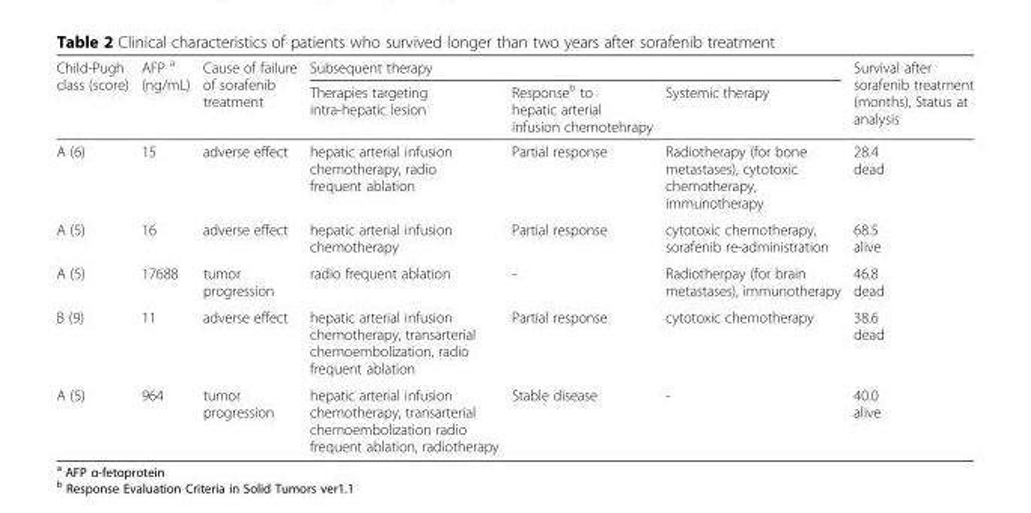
<table><thead><tr><td rowspan="2">Child-Pugh class (score)</td><td rowspan="2">AFP <sup>a</sup> (ng/mL)</td><td rowspan="2">Cause of failure of sorafenib treatment</td><td colspan="3">Subsequent therapy</td><td rowspan="2">Survival after sorafenib treatment (months), Status at analysis</td></tr><tr><td>Therapies targeting intra-hepatic lesion</td><td>Response<sup>b</sup> to hepatic arterial infusion chemotehrapy</td><td>Systemic therapy</td></tr></thead><tbody><tr><td>A (6)</td><td>15</td><td>adverse effect</td><td>hepatic arterial infusion chemotherapy, radio frequent ablation</td><td>Partial response</td><td>Radiotherapy (for bone metastases), cytotoxic chemotherapy, immunotherapy</td><td>28.4 dead</td></tr><tr><td>A (5)</td><td>16</td><td>adverse effect</td><td>hepatic arterial infusion chemotherapy</td><td>Partial response</td><td>cytotoxic chemotherapy, sorafenib re-administration</td><td>68.5 alive</td></tr><tr><td>A (5)</td><td>17688</td><td>tumor progression</td><td>radio frequent ablation</td><td>-</td><td>Radiotherpay (for brain metastases), immunotherapy</td><td>46.8 dead</td></tr><tr><td>B (9)</td><td>11</td><td>adverse effect</td><td>hepatic arterial infusion chemotherapy, transarterial chemoembolization, radio frequent ablation</td><td>Partial response</td><td>cytotoxic chemotherapy</td><td>38.6 dead</td></tr><tr><td>A (5)</td><td>964</td><td>tumor progression</td><td>hepatic arterial infusion chemotherapy, transarterial chemoembolization radio frequent ablation, radiotherapy</td><td>Stable disease</td><td>-</td><td>40.0 alive</td></tr></tbody></table>